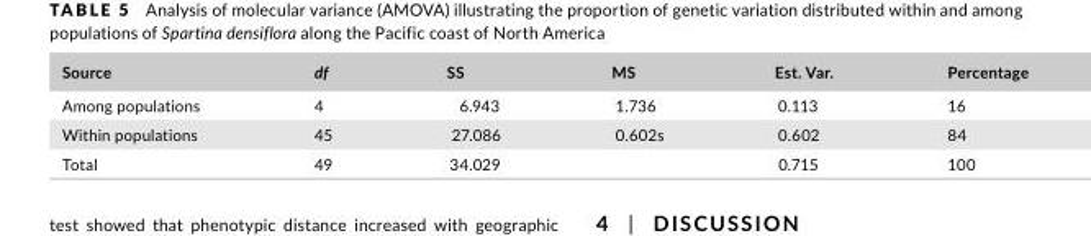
<table><thead><tr><td>Source</td><td>df</td><td>SS</td><td>MS</td><td>Est. Var.</td><td>Percentage</td></tr></thead><tbody><tr><td>Among populations</td><td>4</td><td>6.943</td><td>1.736</td><td>0.113</td><td>16</td></tr><tr><td>Within populations</td><td>45</td><td>27.086</td><td>0.602s</td><td>0.602</td><td>84</td></tr><tr><td>Total</td><td>49</td><td>34.029</td><td></td><td>0.715</td><td>100</td></tr></tbody></table>